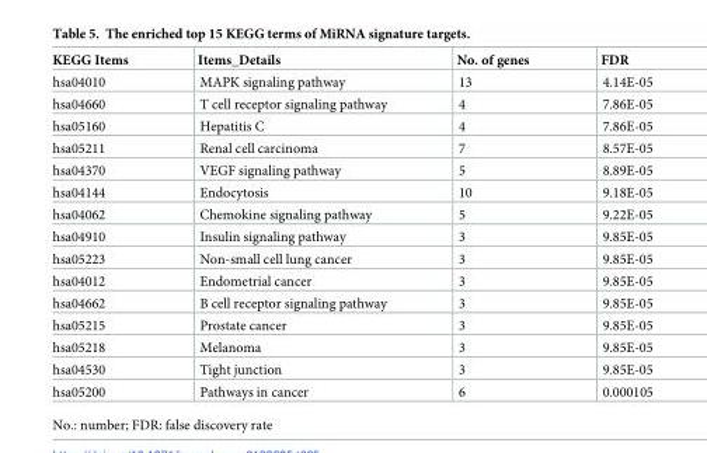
<table><thead><tr><td>KEGG Items</td><td>Items_Details</td><td>No. of genes</td><td>FDR</td></tr></thead><tbody><tr><td>hsa04010</td><td>MAPK signaling pathway</td><td>13</td><td>4.14E-05</td></tr><tr><td>hsa04660</td><td>T cell receptor signaling pathway</td><td>4</td><td>7.86E-05</td></tr><tr><td>hsa05160</td><td>Hepatitis C</td><td>4</td><td>7.86E-05</td></tr><tr><td>hsa05211</td><td>Renal cell carcinoma</td><td>7</td><td>8.57E-05</td></tr><tr><td>hsa04370</td><td>VEGF signaling pathway</td><td>5</td><td>8.89E-05</td></tr><tr><td>hsa04144</td><td>Endocytosis</td><td>10</td><td>9.18E-05</td></tr><tr><td>hsa04062</td><td>Chemokine signaling pathway</td><td>5</td><td>9.22E-05</td></tr><tr><td>hsa04910</td><td>Insulin signaling pathway</td><td>3</td><td>9.85E-05</td></tr><tr><td>hsa05223</td><td>Non-small cell lung cancer</td><td>3</td><td>9.85E-05</td></tr><tr><td>hsa04012</td><td>Endometrial cancer</td><td>3</td><td>9.85E-05</td></tr><tr><td>hsa04662</td><td>B cell receptor signaling pathway</td><td>3</td><td>9.85E-05</td></tr><tr><td>hsa05215</td><td>Prostate cancer</td><td>3</td><td>9.85E-05</td></tr><tr><td>hsa05218</td><td>Melanoma</td><td>3</td><td>9.85E-05</td></tr><tr><td>hsa04530</td><td>Tight junction</td><td>3</td><td>9.85E-05</td></tr><tr><td>hsa05200</td><td>Pathways in cancer</td><td>6</td><td>0.000105</td></tr></tbody></table>